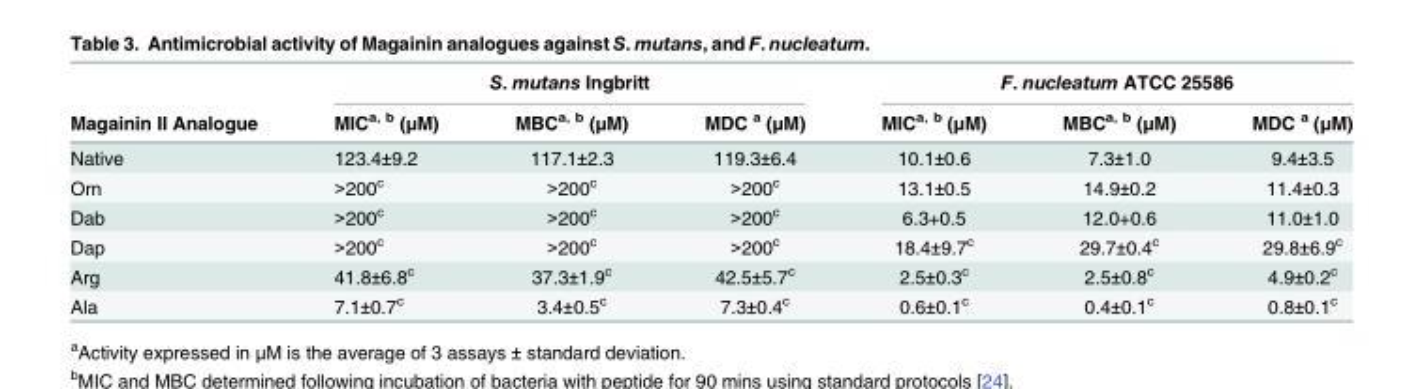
<table><thead><tr><td rowspan="2">Magainin II Analogue</td><td colspan="3">S. mutans Ingbritt</td><td colspan="3">F. nucleatum ATCC 25586</td></tr><tr><td>MIC<sup>a, b</sup> (μM)</td><td>MBC<sup>a, b</sup> (μM)</td><td>MDC <sup>a</sup> (μM)</td><td>MIC<sup>a, b</sup> (μM)</td><td>MBC<sup>a, b</sup> (μM)</td><td>MDC <sup>a</sup> (μM)</td></tr></thead><tbody><tr><td>Native</td><td>123.4±9.2</td><td>117.1±2.3</td><td>119.3±6.4</td><td>10.1±0.6</td><td>7.3±1.0</td><td>9.4±3.5</td></tr><tr><td>Orn</td><td>&gt;200<sup>c</sup></td><td>&gt;200<sup>c</sup></td><td>&gt;200<sup>c</sup></td><td>13.1±0.5</td><td>14.9±0.2</td><td>11.4±0.3</td></tr><tr><td>Dab</td><td>&gt;200<sup>c</sup></td><td>&gt;200<sup>c</sup></td><td>&gt;200<sup>c</sup></td><td>6.3+0.5</td><td>12.0+0.6</td><td>11.0±1.0</td></tr><tr><td>Dap</td><td>&gt;200<sup>c</sup></td><td>&gt;200<sup>c</sup></td><td>&gt;200<sup>c</sup></td><td>18.4±9.7<sup>c</sup></td><td>29.7±0.4<sup>c</sup></td><td>29.8±6.9<sup>c</sup></td></tr><tr><td>Arg</td><td>41.8±6.8<sup>c</sup></td><td>37.3±1.9<sup>c</sup></td><td>42.5±5.7<sup>c</sup></td><td>2.5±0.3<sup>c</sup></td><td>2.5±0.8<sup>c</sup></td><td>4.9±0.2<sup>c</sup></td></tr><tr><td>Ala</td><td>7.1±0.7<sup>c</sup></td><td>3.4±0.5<sup>c</sup></td><td>7.3±0.4<sup>c</sup></td><td>0.6±0.1<sup>c</sup></td><td>0.4±0.1<sup>c</sup></td><td>0.8±0.1<sup>c</sup></td></tr></tbody></table>